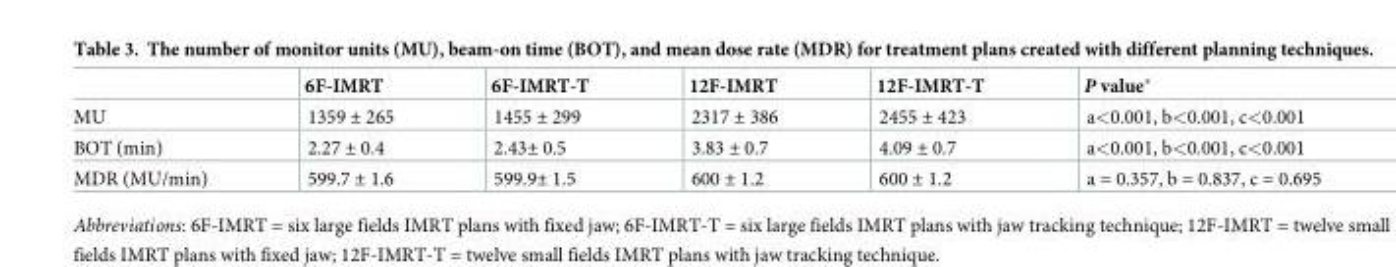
<table><thead><tr><td></td><td>6F-IMRT</td><td>6F-IMRT-T</td><td>12F-IMRT</td><td>12F-IMRT-T</td><td>P value*</td></tr></thead><tbody><tr><td>MU</td><td>1359 ± 265</td><td>1455 ± 299</td><td>2317 ± 386</td><td>2455 ± 423</td><td>a&lt;0.001, b&lt;0.001, c&lt;0.001</td></tr><tr><td>BOT (min)</td><td>2.27 ± 0.4</td><td>2.43± 0.5</td><td>3.83 ± 0.7</td><td>4.09 ± 0.7</td><td>a&lt;0.001, b&lt;0.001, c&lt;0.001</td></tr><tr><td>MDR (MU/min)</td><td>599.7 ± 1.6</td><td>599.9± 1.5</td><td>600 ± 1.2</td><td>600 ± 1.2</td><td>a = 0.357, b = 0.837, c = 0.695</td></tr></tbody></table>